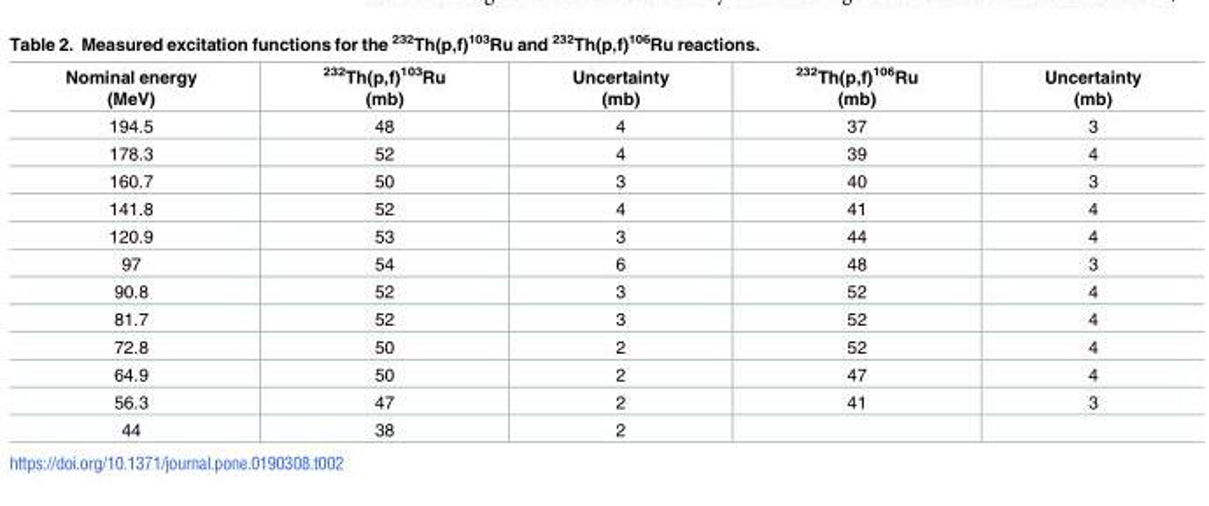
<table><thead><tr><td>Nominal energy (MeV)</td><td><sup>232</sup>Th(p,f)<sup>103</sup>Ru (mb)</td><td>Uncertainty (mb)</td><td><sup>232</sup>Th(p,f)<sup>106</sup>Ru (mb)</td><td>Uncertainty (mb)</td></tr></thead><tbody><tr><td>194.5</td><td>48</td><td>4</td><td>37</td><td>3</td></tr><tr><td>178.3</td><td>52</td><td>4</td><td>39</td><td>4</td></tr><tr><td>160.7</td><td>50</td><td>3</td><td>40</td><td>3</td></tr><tr><td>141.8</td><td>52</td><td>4</td><td>41</td><td>4</td></tr><tr><td>120.9</td><td>53</td><td>3</td><td>44</td><td>4</td></tr><tr><td>97</td><td>54</td><td>6</td><td>48</td><td>3</td></tr><tr><td>90.8</td><td>52</td><td>3</td><td>52</td><td>4</td></tr><tr><td>81.7</td><td>52</td><td>3</td><td>52</td><td>4</td></tr><tr><td>72.8</td><td>50</td><td>2</td><td>52</td><td>4</td></tr><tr><td>64.9</td><td>50</td><td>2</td><td>47</td><td>4</td></tr><tr><td>56.3</td><td>47</td><td>2</td><td>41</td><td>3</td></tr><tr><td>44</td><td>38</td><td>2</td><td></td><td></td></tr></tbody></table>